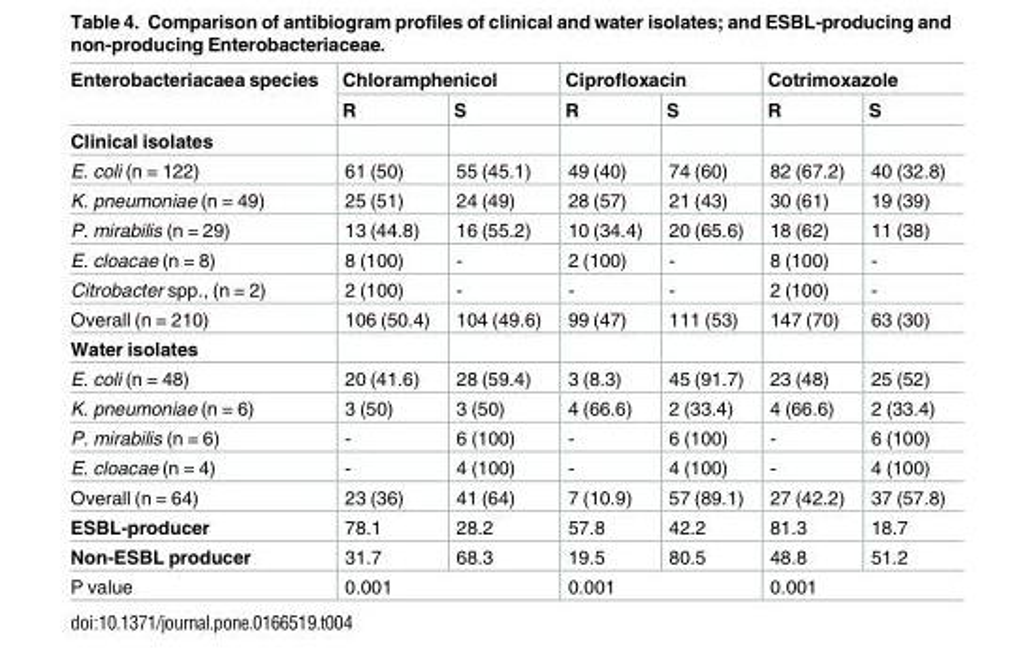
<table><thead><tr><td rowspan="2">Enterobacteriacaea species</td><td colspan="2">Chloramphenicol</td><td colspan="2">Ciprofloxacin</td><td colspan="2">Cotrimoxazole</td></tr><tr><td>R</td><td>S</td><td>R</td><td>S</td><td>R</td><td>S</td></tr></thead><tbody><tr><td colspan="7">Clinical isolates</td></tr><tr><td>E. coli (n = 122)</td><td>61 (50)</td><td>55 (45.1)</td><td>49 (40)</td><td>74 (60)</td><td>82 (67.2)</td><td>40 (32.8)</td></tr><tr><td>K. pneumoniae (n = 49)</td><td>25 (51)</td><td>24 (49)</td><td>28 (57)</td><td>21 (43)</td><td>30 (61)</td><td>19 (39)</td></tr><tr><td>P. mirabilis (n = 29)</td><td>13 (44.8)</td><td>16 (55.2)</td><td>10 (34.4)</td><td>20 (65.6)</td><td>18 (62)</td><td>11 (38)</td></tr><tr><td>E. cloacae (n = 8)</td><td>8 (100)</td><td>-</td><td>2 (100)</td><td>-</td><td>8 (100)</td><td>-</td></tr><tr><td>Citrobacter spp., (n = 2)</td><td>2 (100)</td><td>-</td><td>-</td><td>-</td><td>2 (100)</td><td>-</td></tr><tr><td>Overall (n = 210)</td><td>106 (50.4)</td><td>104 (49.6)</td><td>99 (47)</td><td>111 (53)</td><td>147 (70)</td><td>63 (30)</td></tr><tr><td colspan="7">Water isolates</td></tr><tr><td>E. coli (n = 48)</td><td>20 (41.6)</td><td>28 (59.4)</td><td>3 (8.3)</td><td>45 (91.7)</td><td>23 (48)</td><td>25 (52)</td></tr><tr><td>K. pneumoniae (n = 6)</td><td>3 (50)</td><td>3 (50)</td><td>4 (66.6)</td><td>2 (33.4)</td><td>4 (66.6)</td><td>2 (33.4)</td></tr><tr><td>P. mirabilis (n = 6)</td><td>-</td><td>6 (100)</td><td>-</td><td>6 (100)</td><td>-</td><td>6 (100)</td></tr><tr><td>E. cloacae (n = 4)</td><td>-</td><td>4 (100)</td><td>-</td><td>4 (100)</td><td>-</td><td>4 (100)</td></tr><tr><td>Overall (n = 64)</td><td>23 (36)</td><td>41 (64)</td><td>7 (10.9)</td><td>57 (89.1)</td><td>27 (42.2)</td><td>37 (57.8)</td></tr><tr><td>ESBL-producer</td><td>78.1</td><td>28.2</td><td>57.8</td><td>42.2</td><td>81.3</td><td>18.7</td></tr><tr><td>Non-ESBL producer</td><td>31.7</td><td>68.3</td><td>19.5</td><td>80.5</td><td>48.8</td><td>51.2</td></tr><tr><td>P value</td><td colspan="2">0.001</td><td colspan="2">0.001</td><td colspan="2">0.001</td></tr></tbody></table>